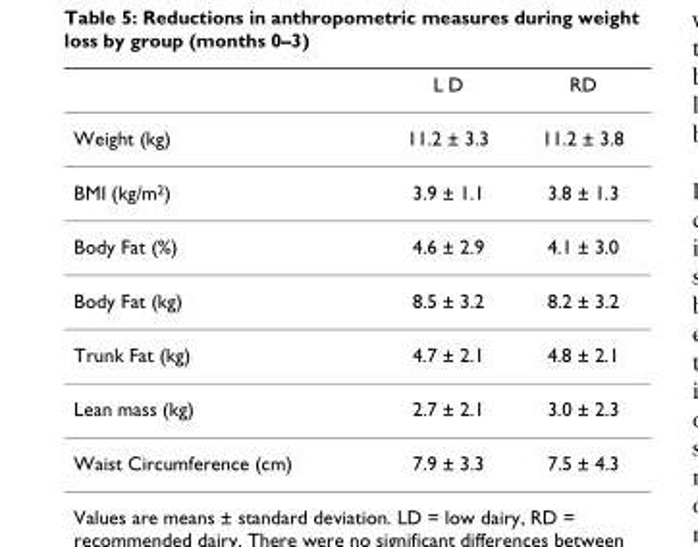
<table><thead><tr><td></td><td>L D</td><td>RD</td></tr></thead><tbody><tr><td>Weight (kg)</td><td>11.2 ± 3.3</td><td>11.2 ± 3.8</td></tr><tr><td>BMI (kg/m<sup>2</sup>)</td><td>3.9 ± 1.1</td><td>3.8 ± 1.3</td></tr><tr><td>Body Fat (%)</td><td>4.6 ± 2.9</td><td>4.1 ± 3.0</td></tr><tr><td>Body Fat (kg)</td><td>8.5 ± 3.2</td><td>8.2 ± 3.2</td></tr><tr><td>Trunk Fat (kg)</td><td>4.7 ± 2.1</td><td>4.8 ± 2.1</td></tr><tr><td>Lean mass (kg)</td><td>2.7 ± 2.1</td><td>3.0 ± 2.3</td></tr><tr><td>Waist Circumference (cm)</td><td>7.9 ± 3.3</td><td>7.5 ± 4.3</td></tr></tbody></table>